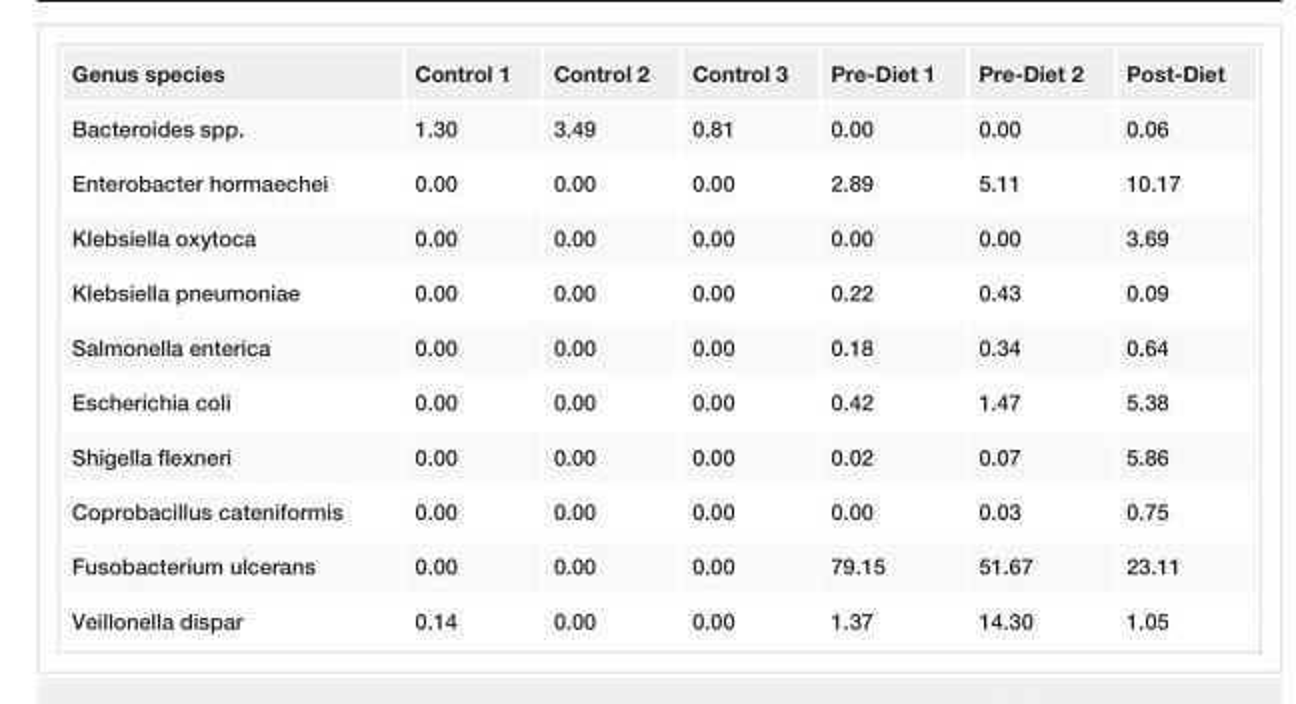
<table><tbody><tr><td>Genus species</td><td>Control 1</td><td>Control 2</td><td>Control 3</td><td>Pre-Diet 1</td><td>Pre-Diet 2</td><td>Post-Diet</td></tr><tr><td>Bacteroides spp.</td><td>1.30</td><td>3.49</td><td>0.81</td><td>0.00</td><td>0.00</td><td>0.06</td></tr><tr><td>Enterobacter hormaechei</td><td>0.00</td><td>0.00</td><td>0.00</td><td>2.89</td><td>5.11</td><td>10.17</td></tr><tr><td>Klebsiella oxytoca</td><td>0.00</td><td>0.00</td><td>0.00</td><td>0.00</td><td>0.00</td><td>3.69</td></tr><tr><td>Klebsiella pneumoniae</td><td>0.00</td><td>0.00</td><td>0.00</td><td>0.22</td><td>0.43</td><td>0.09</td></tr><tr><td>Salmonella enterica</td><td>0.00</td><td>0.00</td><td>0.00</td><td>0.18</td><td>0.34</td><td>0.64</td></tr><tr><td>Escherichia coli</td><td>0.00</td><td>0.00</td><td>0.00</td><td>0.42</td><td>1.47</td><td>5.38</td></tr><tr><td>Shigella flexneri</td><td>0.00</td><td>0.00</td><td>0.00</td><td>0.02</td><td>0.07</td><td>5.86</td></tr><tr><td>Coprobacillus cateniformis</td><td>0.00</td><td>0.00</td><td>0.00</td><td>0.00</td><td>0.03</td><td>0.75</td></tr><tr><td>Fusobacterium ulcerans</td><td>0.00</td><td>0.00</td><td>0.00</td><td>79.15</td><td>51.67</td><td>23.11</td></tr><tr><td>Veillonella dispar</td><td>0.14</td><td>0.00</td><td>0.00</td><td>1.37</td><td>14.30</td><td>1.05</td></tr></tbody></table>